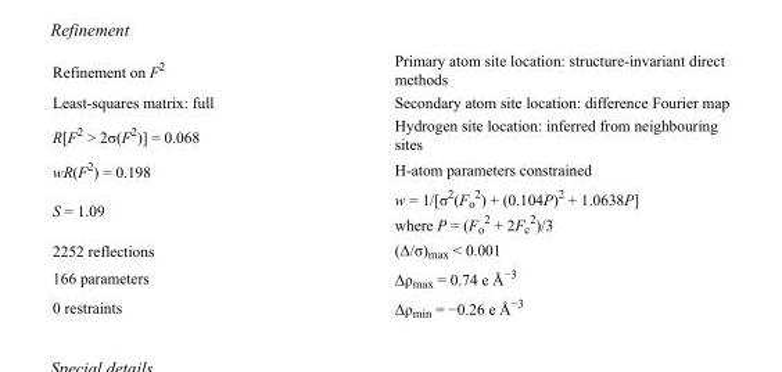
<table><tbody><tr><td>Refinement on F<sup>2</sup></td><td>Primary atom site location: structure-invariant direct methods</td></tr><tr><td>Least-squares matrix: full</td><td>Secondary atom site location: difference Fourier map</td></tr><tr><td>R[F<sup>2</sup> &gt; 2σ(F<sup>2</sup>)] = 0.068</td><td>Hydrogen site location: inferred from neighbouring sites</td></tr><tr><td>wR(F<sup>2</sup>) = 0.198</td><td>H-atom parameters constrained</td></tr><tr><td>S = 1.09</td><td>w = 1/[σ<sup>2</sup>(F<sub>o</sub> <sup>2</sup>) + (0.104P)<sup>2</sup> + 1.0638P] where P = (F<sub>o</sub> <sup>2</sup> + 2F<sub>c</sub> <sup>2</sup>)/3</td></tr><tr><td>2252 reflections</td><td>(Δ/σ)<sub>max</sub> &lt; 0.001</td></tr><tr><td>166 parameters</td><td>Δρ<sub>max</sub> = 0.74 e Å<sup>−3</sup></td></tr><tr><td>0 restraints</td><td>Δρ<sub>min</sub> = −0.26 e Å<sup>−3</sup></td></tr></tbody></table>